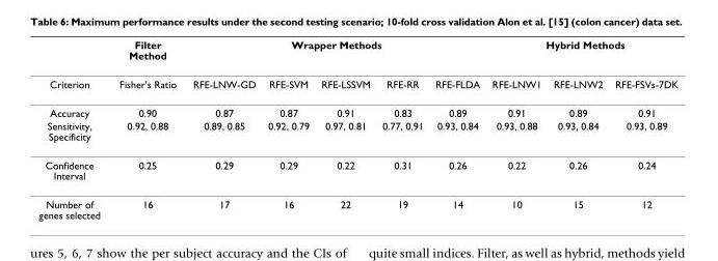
<table><thead><tr><td rowspan="2">Criterion</td><td rowspan="2">Filter Method Fisher&#x27;s Ratio</td><td colspan="5">Wrapper Methods</td><td colspan="3">Hybrid Methods</td></tr><tr><td>RFE-LNW-GD</td><td>RFE-SVM</td><td>RFE-LSSVM</td><td>RFE-RR</td><td>RFE-FLDA</td><td>RFE-LNW1</td><td>RFE-LNW2</td><td>RFE-FSVs-7DK</td></tr></thead><tbody><tr><td>Accuracy</td><td>0.90</td><td>0.87</td><td>0.87</td><td>0.91</td><td>0.83</td><td>0.89</td><td>0.91</td><td>0.89</td><td>0.91</td></tr><tr><td>Sensitivity, Specificity</td><td>0.92, 0.88</td><td>0.89, 0.85</td><td>0.92, 0.79</td><td>0.97, 0.81</td><td>0.77, 0.91</td><td>0.93, 0.84</td><td>0.93, 0.88</td><td>0.93, 0.84</td><td>0.93, 0.89</td></tr><tr><td>Confidence Interval</td><td>0.25</td><td>0.29</td><td>0.29</td><td>0.22</td><td>0.31</td><td>0.26</td><td>0.22</td><td>0.26</td><td>0.24</td></tr><tr><td>Number of genes selected</td><td>16</td><td>17</td><td>16</td><td>22</td><td>19</td><td>14</td><td>10</td><td>15</td><td>12</td></tr></tbody></table>